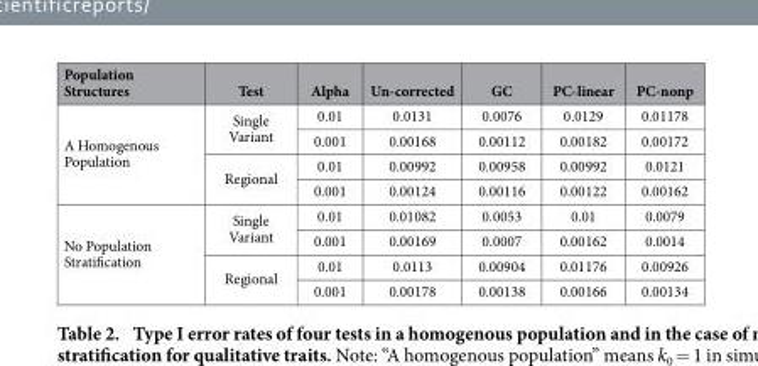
<table><thead><tr><td>Population Structures</td><td>Test</td><td>Alpha</td><td>Un-corrected</td><td>GC</td><td>PC-linear</td><td>PC-nonp</td></tr></thead><tbody><tr><td rowspan="4">A Homogenous Population</td><td rowspan="2">Single Variant</td><td>0.01</td><td>0.0131</td><td>0.0076</td><td>0.0129</td><td>0.01178</td></tr><tr><td>0.001</td><td>0.00168</td><td>0.00112</td><td>0.00182</td><td>0.00172</td></tr><tr><td rowspan="2">Regional</td><td>0.01</td><td>0.00992</td><td>0.00958</td><td>0.00992</td><td>0.0121</td></tr><tr><td>0.001</td><td>0.00124</td><td>0.00116</td><td>0.00122</td><td>0.00162</td></tr><tr><td rowspan="4">No Population Stratification</td><td rowspan="2">Single Variant</td><td>0.01</td><td>0.01082</td><td>0.0053</td><td>0.01</td><td>0.0079</td></tr><tr><td>0.001</td><td>0.00169</td><td>0.0007</td><td>0.00162</td><td>0.0014</td></tr><tr><td rowspan="2">Regional</td><td>0.01</td><td>0.0113</td><td>0.00904</td><td>0.01176</td><td>0.00926</td></tr><tr><td>0.001</td><td>0.00178</td><td>0.00138</td><td>0.00166</td><td>0.00134</td></tr></tbody></table>